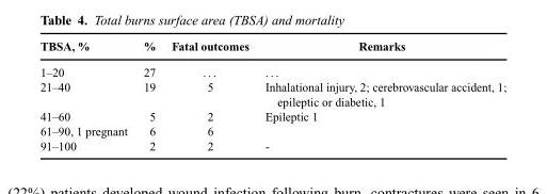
<table><thead><tr><td>TBSA, %</td><td>%</td><td>Fatal outcomes</td><td>Remarks</td></tr></thead><tbody><tr><td>1–20</td><td>27</td><td>. . .</td><td>. . .</td></tr><tr><td>21–40</td><td>19</td><td>5</td><td>Inhalational injury, 2; cerebrovascular accident, 1; epileptic or diabetic, 1</td></tr><tr><td>41–60</td><td>5</td><td>2</td><td>Epileptic 1</td></tr><tr><td>61–90, 1 pregnant</td><td>6</td><td>6</td><td></td></tr><tr><td>91–100</td><td>2</td><td>2</td><td>-</td></tr></tbody></table>